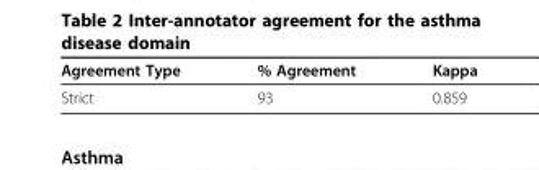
<table><thead><tr><td>Agreement Type</td><td>% Agreement</td><td>Kappa</td></tr></thead><tbody><tr><td>Strict</td><td>93</td><td>0.859</td></tr></tbody></table>